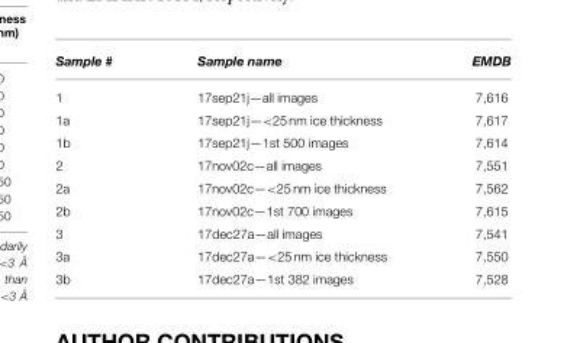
<table><thead><tr><td>Sample #</td><td>Sample name</td><td>EMDB</td></tr></thead><tbody><tr><td>1</td><td>17sep21j—all images</td><td>7,616</td></tr><tr><td>1a</td><td>17sep21j—&lt;25 nm ice thickness</td><td>7,617</td></tr><tr><td>1b</td><td>17sep21j—1st 500 images</td><td>7,614</td></tr><tr><td>2</td><td>17nov02c—all images</td><td>7,551</td></tr><tr><td>2a</td><td>17nov02c—&lt;25 nm ice thickness</td><td>7,562</td></tr><tr><td>2b</td><td>17nov02c—1st 700 images</td><td>7,615</td></tr><tr><td>3</td><td>17dec27a—all images</td><td>7,541</td></tr><tr><td>3a</td><td>17dec27a—&lt;25 nm ice thickness</td><td>7,550</td></tr><tr><td>3b</td><td>17dec27a—1st 382 images</td><td>7,528</td></tr></tbody></table>